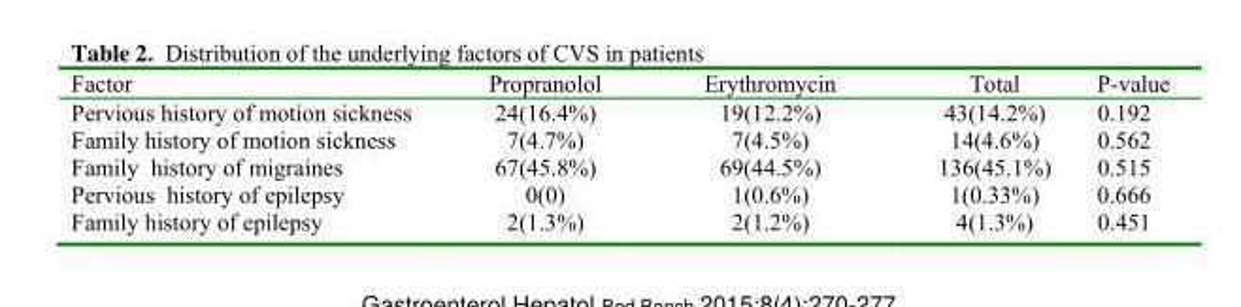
<table><thead><tr><td>Factor</td><td>Propranolol</td><td>Erythromycin</td><td>Total</td><td>P-value</td></tr></thead><tbody><tr><td>Pervious history of motion sickness</td><td>24(16.4%)</td><td>19(12.2%)</td><td>43(14.2%)</td><td>0.192</td></tr><tr><td>Family history of motion sickness</td><td>7(4.7%)</td><td>7(4.5%)</td><td>14(4.6%)</td><td>0.562</td></tr><tr><td>Family history of migraines</td><td>67(45.8%)</td><td>69(44.5%)</td><td>136(45.1%)</td><td>0.515</td></tr><tr><td>Pervious history of epilepsy</td><td>0(0)</td><td>1(0.6%)</td><td>1(0.33%)</td><td>0.666</td></tr><tr><td>Family history of epilepsy</td><td>2(1.3%)</td><td>2(1.2%)</td><td>4(1.3%)</td><td>0.451</td></tr></tbody></table>